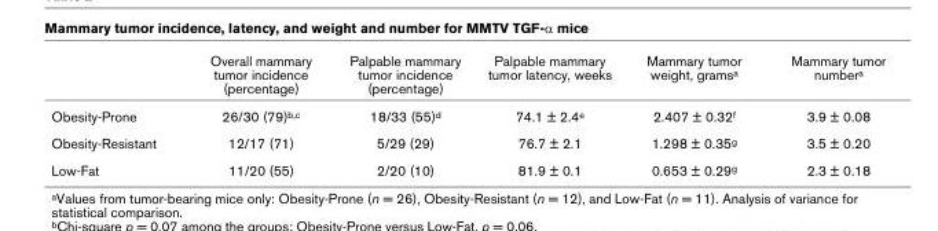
<table><thead><tr><td></td><td>Overall mammary tumor incidence (percentage)</td><td>Palpable mammary tumor incidence (percentage)</td><td>Palpable mammary tumor latency, weeks</td><td>Mammary tumor weight, grams<sup>a</sup></td><td>Mammary tumor number<sup>a</sup></td></tr></thead><tbody><tr><td>Obesity-Prone</td><td>26/30 (79)<sup>b,c</sup></td><td>18/33 (55)<sup>d</sup></td><td>74.1 ± 2.4<sup>e</sup></td><td>2.407 ± 0.32<sup>f</sup></td><td>3.9 ± 0.08</td></tr><tr><td>Obesity-Resistant</td><td>12/17 (71)</td><td>5/29 (29)</td><td>76.7 ± 2.1</td><td>1.298 ± 0.35<sup>g</sup></td><td>3.5 ± 0.20</td></tr><tr><td>Low-Fat</td><td>11/20 (55)</td><td>2/20 (10)</td><td>81.9 ± 0.1</td><td>0.653 ± 0.29<sup>g</sup></td><td>2.3 ± 0.18</td></tr></tbody></table>